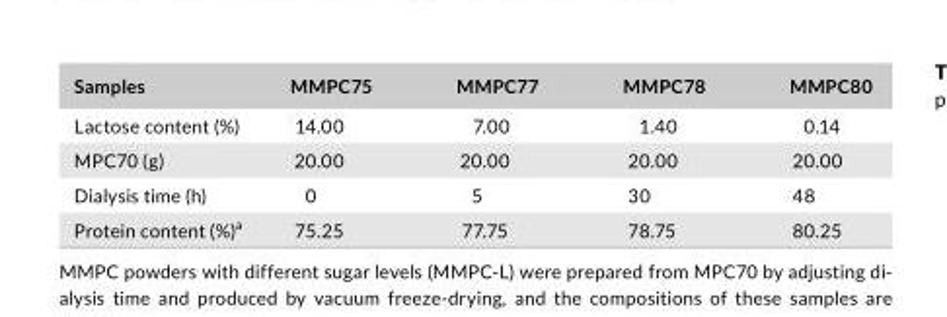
<table><thead><tr><td>Samples</td><td>MMPC75</td><td>MMPC77</td><td>MMPC78</td><td>MMPC80</td></tr></thead><tbody><tr><td>Lactose content (%)</td><td>14.00</td><td>7.00</td><td>1.40</td><td>0.14</td></tr><tr><td>MPC70 (g)</td><td>20.00</td><td>20.00</td><td>20.00</td><td>20.00</td></tr><tr><td>Dialysis time (h)</td><td>0</td><td>5</td><td>30</td><td>48</td></tr><tr><td>Protein content (%)<sup>a</sup></td><td>75.25</td><td>77.75</td><td>78.75</td><td>80.25</td></tr></tbody></table>